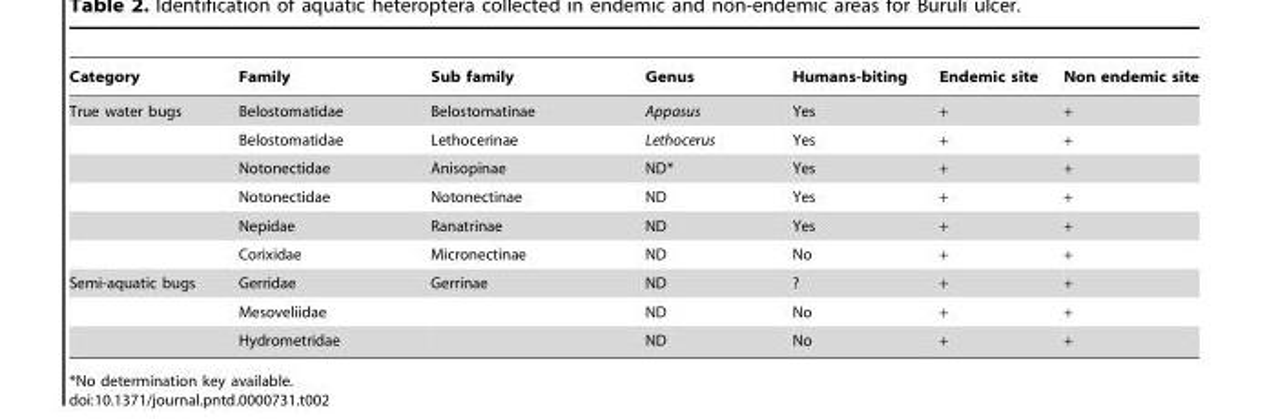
<table><thead><tr><td>Category</td><td>Family</td><td>Sub family</td><td>Genus</td><td>Humans-biting</td><td>Endemic site</td><td>Non endemic site</td></tr></thead><tbody><tr><td rowspan="6">True water bugs</td><td>Belostomatidae</td><td>Belostomatinae</td><td>Appasus</td><td>Yes</td><td>+</td><td>+</td></tr><tr><td>Belostomatidae</td><td>Lethocerinae</td><td>Lethocerus</td><td>Yes</td><td>+</td><td>+</td></tr><tr><td>Notonectidae</td><td>Anisopinae</td><td>ND*</td><td>Yes</td><td>+</td><td>+</td></tr><tr><td>Notonectidae</td><td>Notonectinae</td><td>ND</td><td>Yes</td><td>+</td><td>+</td></tr><tr><td>Nepidae</td><td>Ranatrinae</td><td>ND</td><td>Yes</td><td>+</td><td>+</td></tr><tr><td>Corixidae</td><td>Micronectinae</td><td>ND</td><td>No</td><td>+</td><td>+</td></tr><tr><td rowspan="3">Semi-aquatic bugs</td><td>Gerridae</td><td>Gerrinae</td><td>ND</td><td>?</td><td>+</td><td>+</td></tr><tr><td>Mesoveliidae</td><td></td><td>ND</td><td>No</td><td>+</td><td>+</td></tr><tr><td>Hydrometridae</td><td></td><td>ND</td><td>No</td><td>+</td><td>+</td></tr></tbody></table>